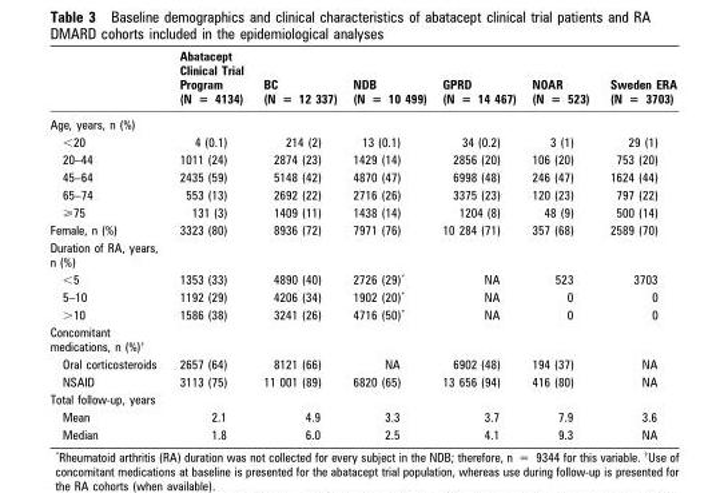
<table><thead><tr><td></td><td>Abatacept Clinical Trial Program (N = 4134)</td><td>BC (N = 12 337)</td><td>NDB (N = 10 499)</td><td>GPRD (N = 14 467)</td><td>NOAR (N = 523)</td><td>Sweden ERA (N = 3703)</td></tr></thead><tbody><tr><td colspan="7">Age, years, n (%)</td></tr><tr><td>&lt;20</td><td>4 (0.1)</td><td>214 (2)</td><td>13 (0.1)</td><td>34 (0.2)</td><td>3 (1)</td><td>29 (1)</td></tr><tr><td>20–44</td><td>1011 (24)</td><td>2874 (23)</td><td>1429 (14)</td><td>2856 (20)</td><td>106 (20)</td><td>753 (20)</td></tr><tr><td>45–64</td><td>2435 (59)</td><td>5148 (42)</td><td>4870 (47)</td><td>6998 (48)</td><td>246 (47)</td><td>1624 (44)</td></tr><tr><td>65–74</td><td>553 (13)</td><td>2692 (22)</td><td>2716 (26)</td><td>3375 (23)</td><td>120 (23)</td><td>797 (22)</td></tr><tr><td>&gt;75</td><td>131 (3)</td><td>1409 (11)</td><td>1438 (14)</td><td>1204 (8)</td><td>48 (9)</td><td>500 (14)</td></tr><tr><td>Female, n (%)</td><td>3323 (80)</td><td>8936 (72)</td><td>7971 (76)</td><td>10 284 (71)</td><td>357 (68)</td><td>2589 (70)</td></tr><tr><td colspan="7">Duration of RA, years, n (%)</td></tr><tr><td>&lt;5</td><td>1353 (33)</td><td>4890 (40)</td><td>2726 (29)*</td><td>NA</td><td>523</td><td>3703</td></tr><tr><td>5–10</td><td>1192 (29)</td><td>4206 (34)</td><td>1902 (20)*</td><td>NA</td><td>0</td><td>0</td></tr><tr><td>&gt;10</td><td>1586 (38)</td><td>3241 (26)</td><td>4716 (50)*</td><td>NA</td><td>0</td><td>0</td></tr><tr><td colspan="7">Concomitant medications, n (%)<sup>†</sup></td></tr><tr><td>Oral corticosteroids</td><td>2657 (64)</td><td>8121 (66)</td><td>NA</td><td>6902 (48)</td><td>194 (37)</td><td>NA</td></tr><tr><td>NSAID</td><td>3113 (75)</td><td>11 001 (89)</td><td>6820 (65)</td><td>13 656 (94)</td><td>416 (80)</td><td>NA</td></tr><tr><td colspan="7">Total follow-up, years</td></tr><tr><td>Mean</td><td>2.1</td><td>4.9</td><td>3.3</td><td>3.7</td><td>7.9</td><td>3.6</td></tr><tr><td>Median</td><td>1.8</td><td>6.0</td><td>2.5</td><td>4.1</td><td>9.3</td><td>NA</td></tr></tbody></table>